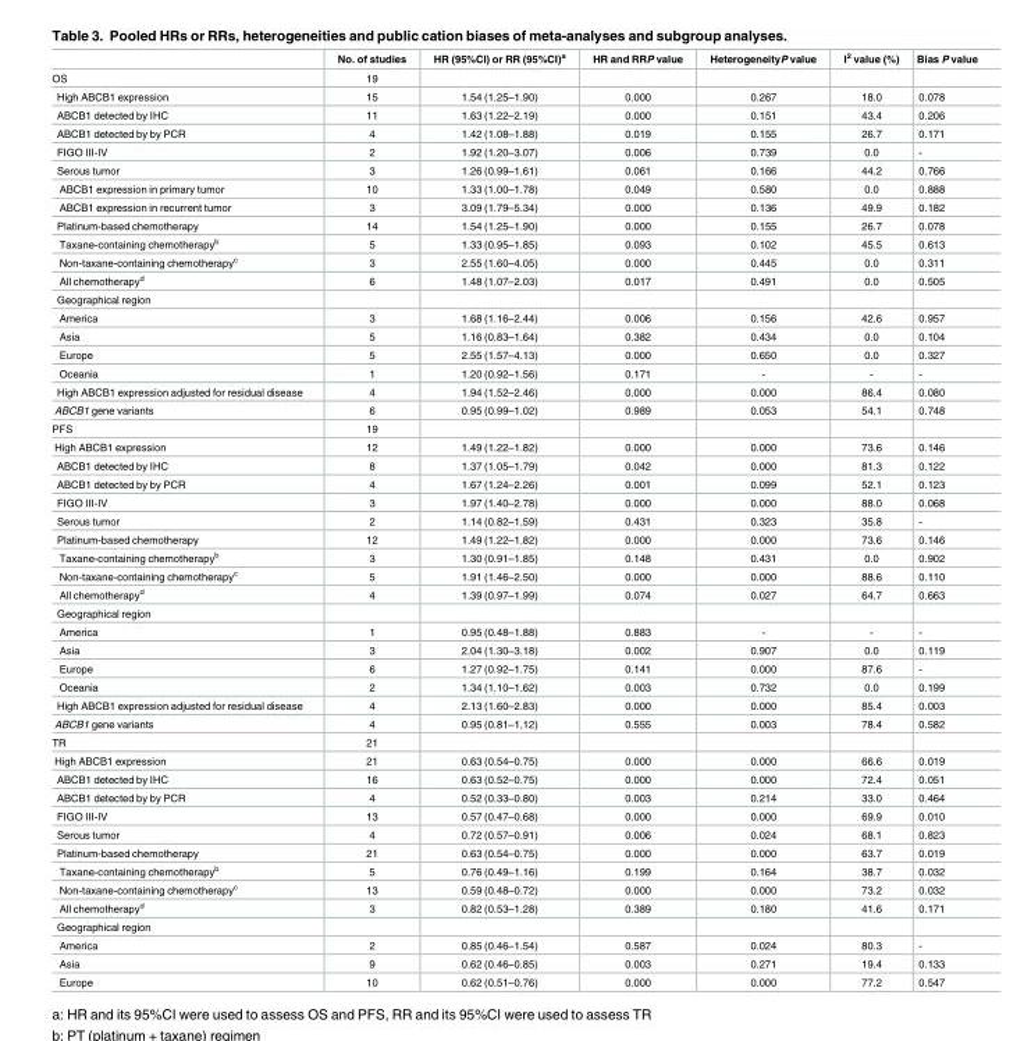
<table><thead><tr><td></td><td>No. of studies</td><td>HR (95%CI) or RR (95%CI)<sup>a</sup></td><td>HR and RRP value</td><td>HeterogeneityP value</td><td>I<sup>2</sup> value (%)</td><td>Bias P value</td></tr></thead><tbody><tr><td>OS</td><td>19</td><td></td><td></td><td></td><td></td><td></td></tr><tr><td>High ABCB1 expression</td><td>15</td><td>1.54 (1.25–1.90)</td><td>0.000</td><td>0.267</td><td>18.0</td><td>0.078</td></tr><tr><td>ABCB1 detected by IHC</td><td>11</td><td>1.63 (1.22–2.19)</td><td>0.000</td><td>0.151</td><td>43.4</td><td>0.206</td></tr><tr><td>ABCB1 detected by by PCR</td><td>4</td><td>1.42 (1.08–1.88)</td><td>0.019</td><td>0.155</td><td>26.7</td><td>0.171</td></tr><tr><td>FIGO III-IV</td><td>2</td><td>1.92 (1.20–3.07)</td><td>0.006</td><td>0.739</td><td>0.0</td><td>-</td></tr><tr><td>Serous tumor</td><td>3</td><td>1.26 (0.99–1.61)</td><td>0.061</td><td>0.166</td><td>44.2</td><td>0.766</td></tr><tr><td>ABCB1 expression in primary tumor</td><td>10</td><td>1.33 (1.00–1.78)</td><td>0.049</td><td>0.580</td><td>0.0</td><td>0.888</td></tr><tr><td>ABCB1 expression in recurrent tumor</td><td>3</td><td>3.09 (1.79–5.34)</td><td>0.000</td><td>0.136</td><td>49.9</td><td>0.182</td></tr><tr><td>Platinum-based chemotherapy</td><td>14</td><td>1.54 (1.25–1.90)</td><td>0.000</td><td>0.155</td><td>26.7</td><td>0.078</td></tr><tr><td>Taxane-containing chemotherapy<sup>b</sup></td><td>5</td><td>1.33 (0.95–1.85)</td><td>0.093</td><td>0.102</td><td>45.5</td><td>0.613</td></tr><tr><td>Non-taxane-containing chemotherapy<sup>c</sup></td><td>3</td><td>2.55 (1.60–4.05)</td><td>0.000</td><td>0.445</td><td>0.0</td><td>0.311</td></tr><tr><td>All chemotherapy<sup>d</sup></td><td>6</td><td>1.48 (1.07–2.03)</td><td>0.017</td><td>0.491</td><td>0.0</td><td>0.505</td></tr><tr><td colspan="7">Geographical region</td></tr><tr><td>America</td><td>3</td><td>1.68 (1.16–2.44)</td><td>0.006</td><td>0.156</td><td>42.6</td><td>0.957</td></tr><tr><td>Asia</td><td>5</td><td>1.16 (0.83–1.64)</td><td>0.382</td><td>0.434</td><td>0.0</td><td>0.104</td></tr><tr><td>Europe</td><td>5</td><td>2.55 (1.57–4.13)</td><td>0.000</td><td>0.650</td><td>0.0</td><td>0.327</td></tr><tr><td>Oceania</td><td>1</td><td>1.20 (0.92–1.56)</td><td>0.171</td><td>-</td><td>-</td><td>-</td></tr><tr><td>High ABCB1 expression adjusted for residual disease</td><td>4</td><td>1.94 (1.52–2.46)</td><td>0.000</td><td>0.000</td><td>86.4</td><td>0.080</td></tr><tr><td>ABCB1 gene variants</td><td>6</td><td>0.95 (0.99–1.02)</td><td>0.989</td><td>0.053</td><td>54.1</td><td>0.748</td></tr><tr><td>PFS</td><td>19</td><td></td><td></td><td></td><td></td><td></td></tr><tr><td>High ABCB1 expression</td><td>12</td><td>1.49 (1.22–1.82)</td><td>0.000</td><td>0.000</td><td>73.6</td><td>0.146</td></tr><tr><td>ABCB1 detected by IHC</td><td>8</td><td>1.37 (1.05–1.79)</td><td>0.042</td><td>0.000</td><td>81.3</td><td>0.122</td></tr><tr><td>ABCB1 detected by by PCR</td><td>4</td><td>1.67 (1.24–2.26)</td><td>0.001</td><td>0.099</td><td>52.1</td><td>0.123</td></tr><tr><td>FIGO III-IV</td><td>3</td><td>1.97 (1.40–2.78)</td><td>0.000</td><td>0.000</td><td>88.0</td><td>0.068</td></tr><tr><td>Serous tumor</td><td>2</td><td>1.14 (0.82–1.59)</td><td>0.431</td><td>0.323</td><td>35.8</td><td>-</td></tr><tr><td>Platinum-based chemotherapy</td><td>12</td><td>1.49 (1.22–1.82)</td><td>0.000</td><td>0.000</td><td>73.6</td><td>0.146</td></tr><tr><td>Taxane-containing chemotherapy<sup>b</sup></td><td>3</td><td>1.30 (0.91–1.85)</td><td>0.148</td><td>0.431</td><td>0.0</td><td>0.902</td></tr><tr><td>Non-taxane-containing chemotherapy<sup>c</sup></td><td>5</td><td>1.91 (1.46–2.50)</td><td>0.000</td><td>0.000</td><td>88.6</td><td>0.110</td></tr><tr><td>All chemotherapy<sup>d</sup></td><td>4</td><td>1.39 (0.97–1.99)</td><td>0.074</td><td>0.027</td><td>64.7</td><td>0.663</td></tr><tr><td colspan="7">Geographical region</td></tr><tr><td>America</td><td>1</td><td>0.95 (0.48–1.88)</td><td>0.883</td><td>-</td><td>-</td><td>-</td></tr><tr><td>Asia</td><td>3</td><td>2.04 (1.30–3.18)</td><td>0.002</td><td>0.907</td><td>0.0</td><td>0.119</td></tr><tr><td>Europe</td><td>6</td><td>1.27 (0.92–1.75)</td><td>0.141</td><td>0.000</td><td>87.6</td><td>-</td></tr><tr><td>Oceania</td><td>2</td><td>1.34 (1.10–1.62)</td><td>0.003</td><td>0.732</td><td>0.0</td><td>0.199</td></tr><tr><td>High ABCB1 expression adjusted for residual disease</td><td>4</td><td>2.13 (1.60–2.83)</td><td>0.000</td><td>0.000</td><td>85.4</td><td>0.003</td></tr><tr><td>ABCB1 gene variants</td><td>4</td><td>0.95 (0.81–1,12)</td><td>0.555</td><td>0.003</td><td>78.4</td><td>0.582</td></tr><tr><td>TR</td><td>21</td><td></td><td></td><td></td><td></td><td></td></tr><tr><td>High ABCB1 expression</td><td>21</td><td>0.63 (0.54–0.75)</td><td>0.000</td><td>0.000</td><td>66.6</td><td>0.019</td></tr><tr><td>ABCB1 detected by IHC</td><td>16</td><td>0.63 (0.52–0.75)</td><td>0.000</td><td>0.000</td><td>72.4</td><td>0.051</td></tr><tr><td>ABCB1 detected by by PCR</td><td>4</td><td>0.52 (0.33–0.80)</td><td>0.003</td><td>0.214</td><td>33.0</td><td>0.464</td></tr><tr><td>FIGO III-IV</td><td>13</td><td>0.57 (0.47–0.68)</td><td>0.000</td><td>0.000</td><td>69.9</td><td>0.010</td></tr><tr><td>Serous tumor</td><td>4</td><td>0.72 (0.57–0.91)</td><td>0.006</td><td>0.024</td><td>68.1</td><td>0.823</td></tr><tr><td>Platinum-based chemotherapy</td><td>21</td><td>0.63 (0.54–0.75)</td><td>0.000</td><td>0.000</td><td>63.7</td><td>0.019</td></tr><tr><td>Taxane-containing chemotherapy<sup>b</sup></td><td>5</td><td>0.76 (0.49–1.16)</td><td>0.199</td><td>0.164</td><td>38.7</td><td>0.032</td></tr><tr><td>Non-taxane-containing chemotherapy<sup>c</sup></td><td>13</td><td>0.59 (0.48–0.72)</td><td>0.000</td><td>0.000</td><td>73.2</td><td>0.032</td></tr><tr><td>All chemotherapy<sup>d</sup></td><td>3</td><td>0.82 (0.53–1.28)</td><td>0.389</td><td>0.180</td><td>41.6</td><td>0.171</td></tr><tr><td colspan="7">Geographical region</td></tr><tr><td>America</td><td>2</td><td>0.85 (0.46–1.54)</td><td>0.587</td><td>0.024</td><td>80.3</td><td>-</td></tr><tr><td>Asia</td><td>9</td><td>0.62 (0.46–0.85)</td><td>0.003</td><td>0.271</td><td>19.4</td><td>0.133</td></tr><tr><td>Europe</td><td>10</td><td>0.62 (0.51–0.76)</td><td>0.000</td><td>0.000</td><td>77.2</td><td>0.547</td></tr></tbody></table>